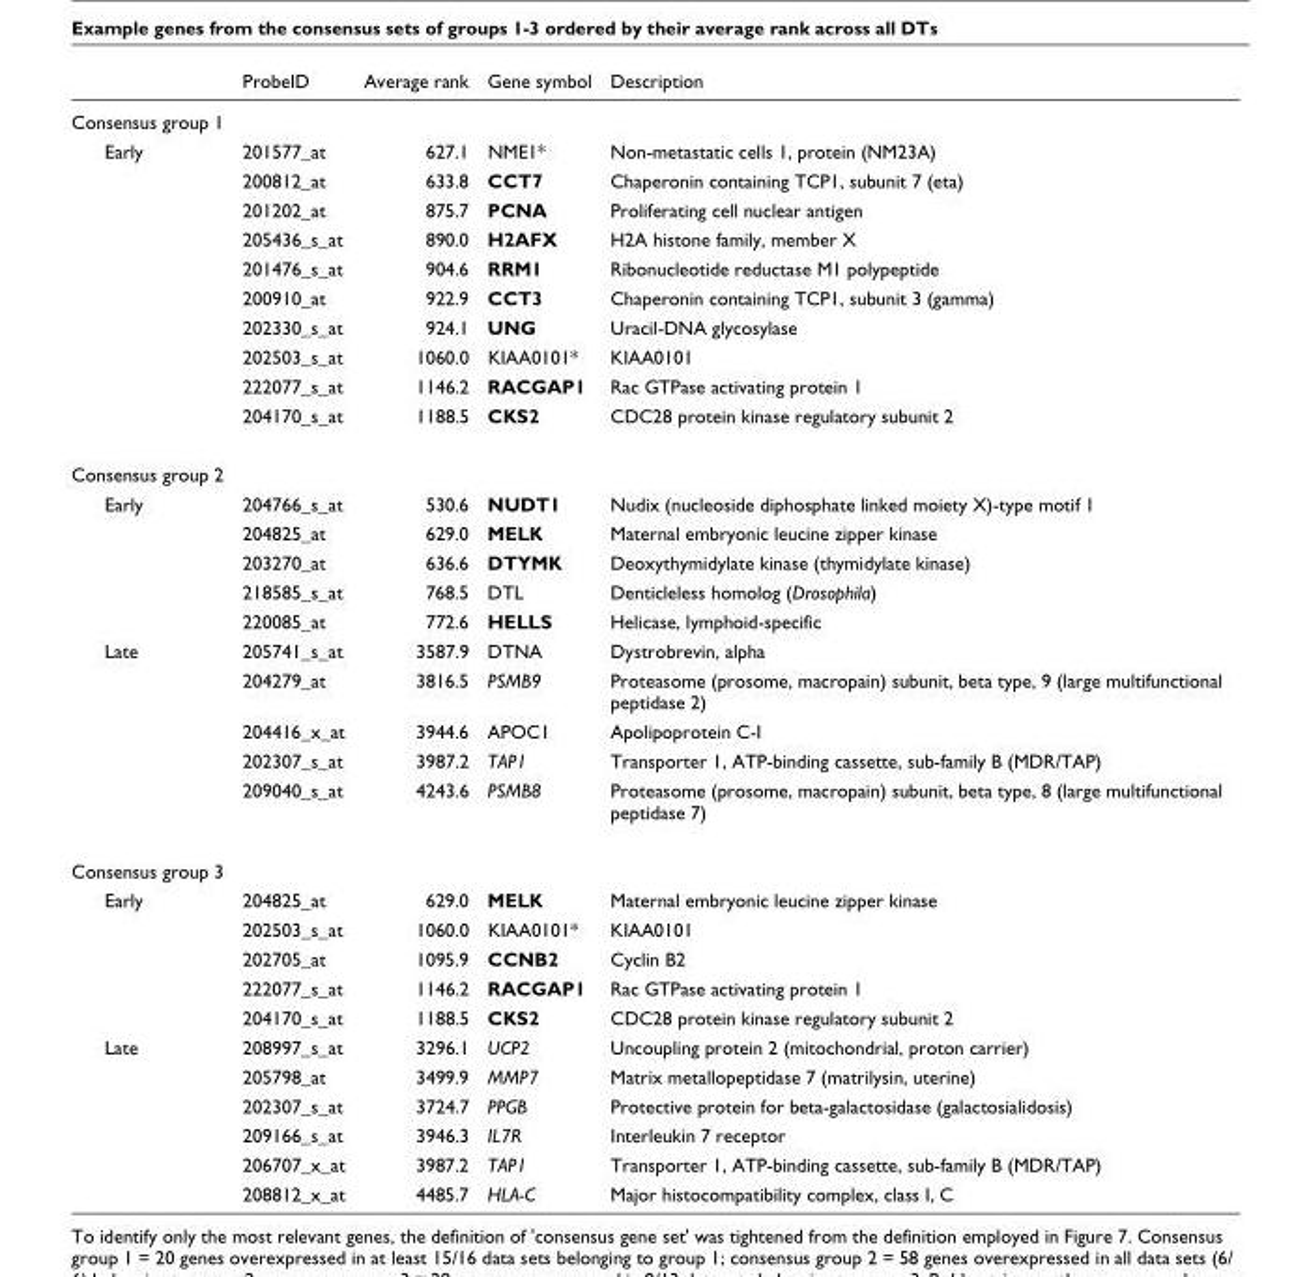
<table><thead><tr><td></td><td>ProbeID</td><td>Average rank</td><td>Gene symbol</td><td>Description</td></tr></thead><tbody><tr><td colspan="5">Consensus group 1</td></tr><tr><td rowspan="10">Early</td><td>201577_at</td><td>627.1</td><td>NME1*</td><td>Non-metastatic cells 1, protein (NM23A)</td></tr><tr><td>200812_at</td><td>633.8</td><td>CCT7</td><td>Chaperonin containing TCP1, subunit 7 (eta)</td></tr><tr><td>201202_at</td><td>875.7</td><td>PCNA</td><td>Proliferating cell nuclear antigen</td></tr><tr><td>205436_s_at</td><td>890.0</td><td>H2AFX</td><td>H2A histone family, member X</td></tr><tr><td>201476_s_at</td><td>904.6</td><td>RRM1</td><td>Ribonucleotide reductase M1 polypeptide</td></tr><tr><td>200910_at</td><td>922.9</td><td>CCT3</td><td>Chaperonin containing TCP1, subunit 3 (gamma)</td></tr><tr><td>202330_s_at</td><td>924.1</td><td>UNG</td><td>Uracil-DNA glycosylase</td></tr><tr><td>202503_s_at</td><td>1060.0</td><td>KIAA0101*</td><td>KIAA0101</td></tr><tr><td>222077_s_at</td><td>1146.2</td><td>RACGAP1</td><td>Rac GTPase activating protein 1</td></tr><tr><td>204170_s_at</td><td>1188.5</td><td>CKS2</td><td>CDC28 protein kinase regulatory subunit 2</td></tr><tr><td colspan="5">Consensus group 2</td></tr><tr><td rowspan="5">Early</td><td>204766_s_at</td><td>530.6</td><td>NUDT1</td><td>Nudix (nucleoside diphosphate linked moiety X)-type motif 1</td></tr><tr><td>204825_at</td><td>629.0</td><td>MELK</td><td>Maternal embryonic leucine zipper kinase</td></tr><tr><td>203270_at</td><td>636.6</td><td>DTYMK</td><td>Deoxythymidylate kinase (thymidylate kinase)</td></tr><tr><td>218585_s_at</td><td>768.5</td><td>DTL</td><td>Denticleless homolog (Drosophila)</td></tr><tr><td>220085_at</td><td>772.6</td><td>HELLS</td><td>Helicase, lymphoid-specific</td></tr><tr><td rowspan="5">Late</td><td>205741_s_at</td><td>3587.9</td><td>DTNA</td><td>Dystrobrevin, alpha</td></tr><tr><td>204279_at</td><td>3816.5</td><td>PSMB9</td><td>Proteasome (prosome, macropain) subunit, beta type, 9 (large multifunctional peptidase 2)</td></tr><tr><td>204416_x_at</td><td>3944.6</td><td>APOC1</td><td>Apolipoprotein C-I</td></tr><tr><td>202307_s_at</td><td>3987.2</td><td>TAP1</td><td>Transporter 1, ATP-binding cassette, sub-family B (MDR/TAP)</td></tr><tr><td>209040_s_at</td><td>4243.6</td><td>PSMB8</td><td>Proteasome (prosome, macropain) subunit, beta type, 8 (large multifunctional peptidase 7)</td></tr><tr><td colspan="5">Consensus group 3</td></tr><tr><td rowspan="5">Early</td><td>204825_at</td><td>629.0</td><td>MELK</td><td>Maternal embryonic leucine zipper kinase</td></tr><tr><td>202503_s_at</td><td>1060.0</td><td>KIAA0101*</td><td>KIAA0101</td></tr><tr><td>202705_at</td><td>1095.9</td><td>CCNB2</td><td>Cyclin B2</td></tr><tr><td>222077_s_at</td><td>1146.2</td><td>RACGAP1</td><td>Rac GTPase activating protein 1</td></tr><tr><td>204170_s_at</td><td>1188.5</td><td>CKS2</td><td>CDC28 protein kinase regulatory subunit 2</td></tr><tr><td rowspan="6">Late</td><td>208997_s_at</td><td>3296.1</td><td>UCP2</td><td>Uncoupling protein 2 (mitochondrial, proton carrier)</td></tr><tr><td>205798_at</td><td>3499.9</td><td>MMP7</td><td>Matrix metallopeptidase 7 (matrilysin, uterine)</td></tr><tr><td>202307_s_at</td><td>3724.7</td><td>PPGB</td><td>Protective protein for beta-galactosidase (galactosialidosis)</td></tr><tr><td>209166_s_at</td><td>3946.3</td><td>IL7R</td><td>Interleukin 7 receptor</td></tr><tr><td>206707_x_at</td><td>3987.2</td><td>TAP1</td><td>Transporter 1, ATP-binding cassette, sub-family B (MDR/TAP)</td></tr><tr><td>208812_x_at</td><td>4485.7</td><td>HLA-C</td><td>Major histocompatibility complex, class I, C</td></tr></tbody></table>